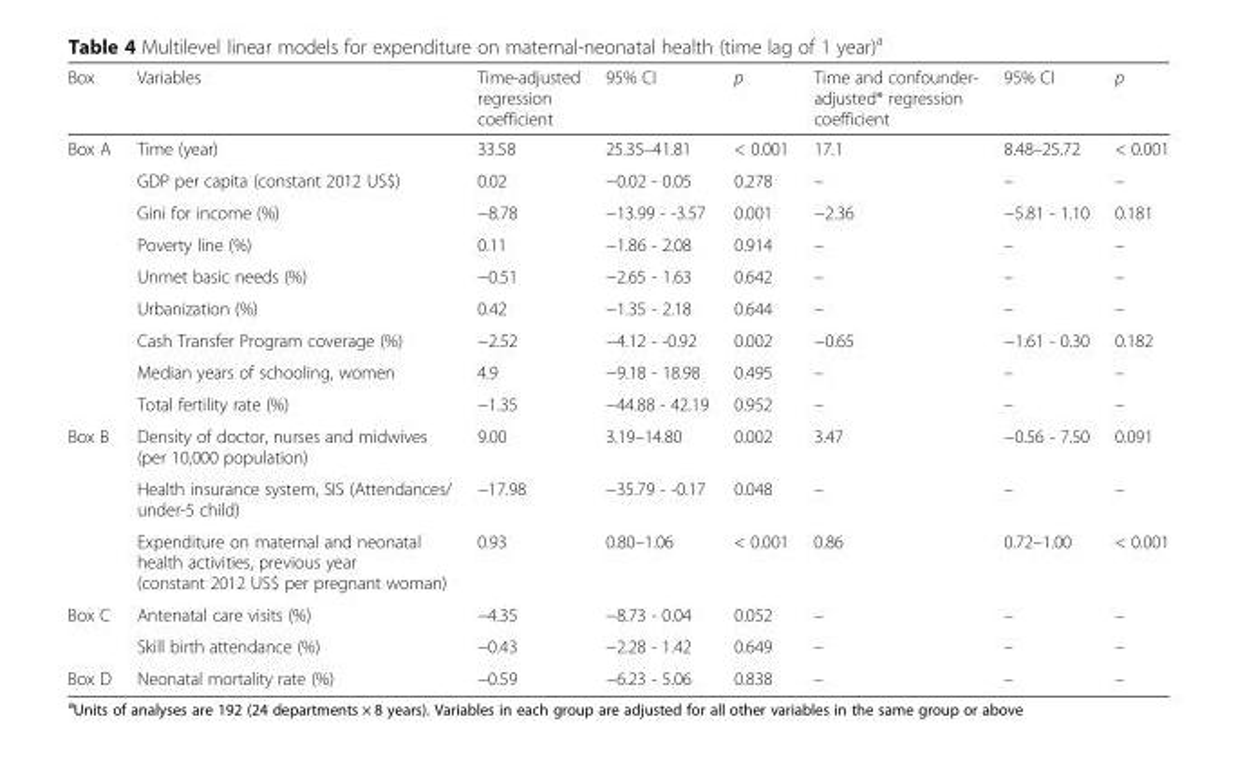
<table><thead><tr><td>Box</td><td>Variables</td><td>Time-adjusted regression coefficient</td><td>95% CI</td><td>p</td><td>Time and confounder- adjusted* regression coefficient</td><td>95% CI</td><td>p</td></tr></thead><tbody><tr><td rowspan="9">Box A</td><td>Time (year)</td><td>33.58</td><td>25.35–41.81</td><td>&lt; 0.001</td><td>17.1</td><td>8.48–25.72</td><td>&lt; 0.001</td></tr><tr><td>GDP per capita (constant 2012 US$)</td><td>0.02</td><td>−0.02 - 0.05</td><td>0.278</td><td>–</td><td>–</td><td>–</td></tr><tr><td>Gini for income (%)</td><td>−8.78</td><td>−13.99 - -3.57</td><td>0.001</td><td>−2.36</td><td>−5.81 - 1.10</td><td>0.181</td></tr><tr><td>Poverty line (%)</td><td>0.11</td><td>−1.86 - 2.08</td><td>0.914</td><td>–</td><td>–</td><td>–</td></tr><tr><td>Unmet basic needs (%)</td><td>−0.51</td><td>−2.65 - 1.63</td><td>0.642</td><td>–</td><td>–</td><td>–</td></tr><tr><td>Urbanization (%)</td><td>0.42</td><td>−1.35 - 2.18</td><td>0.644</td><td>–</td><td>–</td><td>–</td></tr><tr><td>Cash Transfer Program coverage (%)</td><td>−2.52</td><td>−4.12 - -0.92</td><td>0.002</td><td>−0.65</td><td>−1.61 - 0.30</td><td>0.182</td></tr><tr><td>Median years of schooling, women</td><td>4.9</td><td>−9.18 - 18.98</td><td>0.495</td><td>–</td><td>–</td><td>–</td></tr><tr><td>Total fertility rate (%)</td><td>−1.35</td><td>−44.88 - 42.19</td><td>0.952</td><td>–</td><td>–</td><td>–</td></tr><tr><td rowspan="3">Box B</td><td>Density of doctor, nurses and midwives (per 10,000 population)</td><td>9.00</td><td>3.19–14.80</td><td>0.002</td><td>3.47</td><td>−0.56 - 7.50</td><td>0.091</td></tr><tr><td>Health insurance system, SIS (Attendances/ under-5 child)</td><td>−17.98</td><td>−35.79 - -0.17</td><td>0.048</td><td>–</td><td>–</td><td>–</td></tr><tr><td>Expenditure on maternal and neonatal health activities, previous year (constant 2012 US$ per pregnant woman)</td><td>0.93</td><td>0.80–1.06</td><td>&lt; 0.001</td><td>0.86</td><td>0.72–1.00</td><td>&lt; 0.001</td></tr><tr><td rowspan="2">Box C</td><td>Antenatal care visits (%)</td><td>−4.35</td><td>−8.73 - 0.04</td><td>0.052</td><td>–</td><td>–</td><td>–</td></tr><tr><td>Skill birth attendance (%)</td><td>−0.43</td><td>−2.28 - 1.42</td><td>0.649</td><td>–</td><td>–</td><td>–</td></tr><tr><td>Box D</td><td>Neonatal mortality rate (%)</td><td>−0.59</td><td>−6.23 - 5.06</td><td>0.838</td><td>–</td><td>–</td><td>–</td></tr></tbody></table>